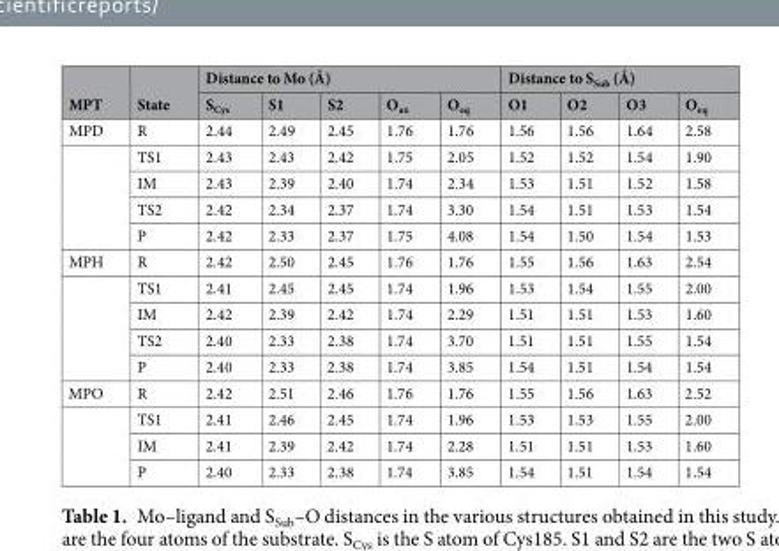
<table><thead><tr><td rowspan="2">MPT</td><td rowspan="2">State</td><td colspan="5">Distance to Mo (Å)</td><td colspan="4">Distance to S<sub>Sub</sub> (Å)</td></tr><tr><td>S<sub>Cys</sub></td><td>S1</td><td>S2</td><td>O<sub>ax</sub></td><td>O<sub>eq</sub></td><td>O1</td><td>O2</td><td>O3</td><td>O<sub>eq</sub></td></tr></thead><tbody><tr><td rowspan="5">MPD</td><td>R</td><td>2.44</td><td>2.49</td><td>2.45</td><td>1.76</td><td>1.76</td><td>1.56</td><td>1.56</td><td>1.64</td><td>2.58</td></tr><tr><td>TS1</td><td>2.43</td><td>2.43</td><td>2.42</td><td>1.75</td><td>2.05</td><td>1.52</td><td>1.52</td><td>1.54</td><td>1.90</td></tr><tr><td>IM</td><td>2.43</td><td>2.39</td><td>2.40</td><td>1.74</td><td>2.34</td><td>1.53</td><td>1.51</td><td>1.52</td><td>1.58</td></tr><tr><td>TS2</td><td>2.42</td><td>2.34</td><td>2.37</td><td>1.74</td><td>3.30</td><td>1.54</td><td>1.51</td><td>1.53</td><td>1.54</td></tr><tr><td>P</td><td>2.42</td><td>2.33</td><td>2.37</td><td>1.75</td><td>4.08</td><td>1.54</td><td>1.50</td><td>1.54</td><td>1.53</td></tr><tr><td rowspan="5">MPH</td><td>R</td><td>2.42</td><td>2.50</td><td>2.45</td><td>1.76</td><td>1.76</td><td>1.55</td><td>1.56</td><td>1.63</td><td>2.54</td></tr><tr><td>TS1</td><td>2.41</td><td>2.45</td><td>2.45</td><td>1.74</td><td>1.96</td><td>1.53</td><td>1.54</td><td>1.55</td><td>2.00</td></tr><tr><td>IM</td><td>2.42</td><td>2.39</td><td>2.42</td><td>1.74</td><td>2.29</td><td>1.51</td><td>1.51</td><td>1.53</td><td>1.60</td></tr><tr><td>TS2</td><td>2.40</td><td>2.33</td><td>2.38</td><td>1.74</td><td>3.70</td><td>1.51</td><td>1.51</td><td>1.55</td><td>1.54</td></tr><tr><td>P</td><td>2.40</td><td>2.33</td><td>2.38</td><td>1.74</td><td>3.85</td><td>1.54</td><td>1.51</td><td>1.54</td><td>1.54</td></tr><tr><td rowspan="4">MPO</td><td>R</td><td>2.42</td><td>2.51</td><td>2.46</td><td>1.76</td><td>1.76</td><td>1.55</td><td>1.56</td><td>1.63</td><td>2.52</td></tr><tr><td>TS1</td><td>2.41</td><td>2.46</td><td>2.45</td><td>1.74</td><td>1.96</td><td>1.53</td><td>1.53</td><td>1.55</td><td>2.00</td></tr><tr><td>IM</td><td>2.41</td><td>2.39</td><td>2.42</td><td>1.74</td><td>2.28</td><td>1.51</td><td>1.51</td><td>1.53</td><td>1.60</td></tr><tr><td>P</td><td>2.40</td><td>2.33</td><td>2.38</td><td>1.74</td><td>3.85</td><td>1.54</td><td>1.51</td><td>1.54</td><td>1.54</td></tr></tbody></table>